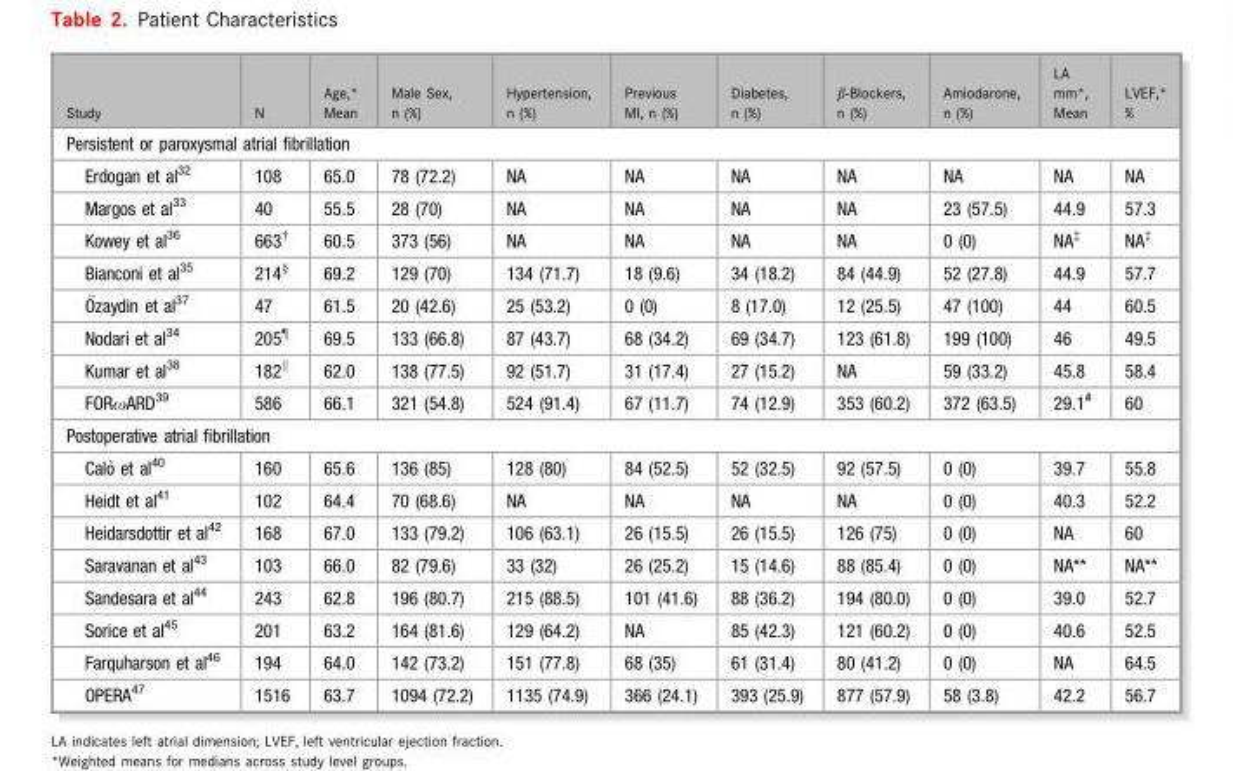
<table><thead><tr><td>Study</td><td>N</td><td>Age,* Mean</td><td>Male Sex, n (%)</td><td>Hypertension, n (%)</td><td>Previous MI, n (%)</td><td>Diabetes, n (%)</td><td>β-Blockers, n (%)</td><td>Amiodarone, n (%)</td><td>LA mm*, Mean</td><td>LVEF,* %</td></tr></thead><tbody><tr><td colspan="11">Persistent or paroxysmal atrial fibrillation</td></tr><tr><td>Erdogan et al<sup>32</sup></td><td>108</td><td>65.0</td><td>78 (72.2)</td><td>NA</td><td>NA</td><td>NA</td><td>NA</td><td>NA</td><td>NA</td><td>NA</td></tr><tr><td>Margos et al<sup>33</sup></td><td>40</td><td>55.5</td><td>28 (70)</td><td>NA</td><td>NA</td><td>NA</td><td>NA</td><td>23 (57.5)</td><td>44.9</td><td>57.3</td></tr><tr><td>Kowey et al<sup>36</sup></td><td>663†</td><td>60.5</td><td>373 (56)</td><td>NA</td><td>NA</td><td>NA</td><td>NA</td><td>0 (0)</td><td>NA‡</td><td>NA‡</td></tr><tr><td>Bianconi et al<sup>35</sup></td><td>214§</td><td>69.2</td><td>129 (70)</td><td>134 (71.7)</td><td>18 (9.6)</td><td>34 (18.2)</td><td>84 (44.9)</td><td>52 (27.8)</td><td>44.9</td><td>57.7</td></tr><tr><td>€Ozaydin et al37</td><td>47</td><td>61.5</td><td>20 (42.6)</td><td>25 (53.2)</td><td>0 (0)</td><td>8 (17.0)</td><td>12 (25.5)</td><td>47 (100)</td><td>44</td><td>60.5</td></tr><tr><td>Nodari et al<sup>34</sup></td><td>205¶</td><td>69.5</td><td>133 (66.8)</td><td>87 (43.7)</td><td>68 (34.2)</td><td>69 (34.7)</td><td>123 (61.8)</td><td>199 (100)</td><td>46</td><td>49.5</td></tr><tr><td>Kumar et al<sup>38</sup></td><td>182k</td><td>62.0</td><td>138 (77.5)</td><td>92 (51.7)</td><td>31 (17.4)</td><td>27 (15.2)</td><td>NA</td><td>59 (33.2)</td><td>45.8</td><td>58.4</td></tr><tr><td>FORωARD<sup>39</sup></td><td>586</td><td>66.1</td><td>321 (54.8)</td><td>524 (91.4)</td><td>67 (11.7)</td><td>74 (12.9)</td><td>353 (60.2)</td><td>372 (63.5)</td><td>29.1#</td><td>60</td></tr><tr><td colspan="11">Postoperative atrial fibrillation</td></tr><tr><td>Cal�o et al40</td><td>160</td><td>65.6</td><td>136 (85)</td><td>128 (80)</td><td>84 (52.5)</td><td>52 (32.5)</td><td>92 (57.5)</td><td>0 (0)</td><td>39.7</td><td>55.8</td></tr><tr><td>Heidt et al<sup>41</sup></td><td>102</td><td>64.4</td><td>70 (68.6)</td><td>NA</td><td>NA</td><td>NA</td><td>NA</td><td>0 (0)</td><td>40.3</td><td>52.2</td></tr><tr><td>Heidarsdottir et al<sup>42</sup></td><td>168</td><td>67.0</td><td>133 (79.2)</td><td>106 (63.1)</td><td>26 (15.5)</td><td>26 (15.5)</td><td>126 (75)</td><td>0 (0)</td><td>NA</td><td>60</td></tr><tr><td>Saravanan et al<sup>43</sup></td><td>103</td><td>66.0</td><td>82 (79.6)</td><td>33 (32)</td><td>26 (25.2)</td><td>15 (14.6)</td><td>88 (85.4)</td><td>0 (0)</td><td>NA**</td><td>NA**</td></tr><tr><td>Sandesara et al<sup>44</sup></td><td>243</td><td>62.8</td><td>196 (80.7)</td><td>215 (88.5)</td><td>101 (41.6)</td><td>88 (36.2)</td><td>194 (80.0)</td><td>0 (0)</td><td>39.0</td><td>52.7</td></tr><tr><td>Sorice et al<sup>45</sup></td><td>201</td><td>63.2</td><td>164 (81.6)</td><td>129 (64.2)</td><td>NA</td><td>85 (42.3)</td><td>121 (60.2)</td><td>0 (0)</td><td>40.6</td><td>52.5</td></tr><tr><td>Farquharson et al<sup>46</sup></td><td>194</td><td>64.0</td><td>142 (73.2)</td><td>151 (77.8)</td><td>68 (35)</td><td>61 (31.4)</td><td>80 (41.2)</td><td>0 (0)</td><td>NA</td><td>64.5</td></tr><tr><td>OPERA<sup>47</sup></td><td>1516</td><td>63.7</td><td>1094 (72.2)</td><td>1135 (74.9)</td><td>366 (24.1)</td><td>393 (25.9)</td><td>877 (57.9)</td><td>58 (3.8)</td><td>42.2</td><td>56.7</td></tr></tbody></table>